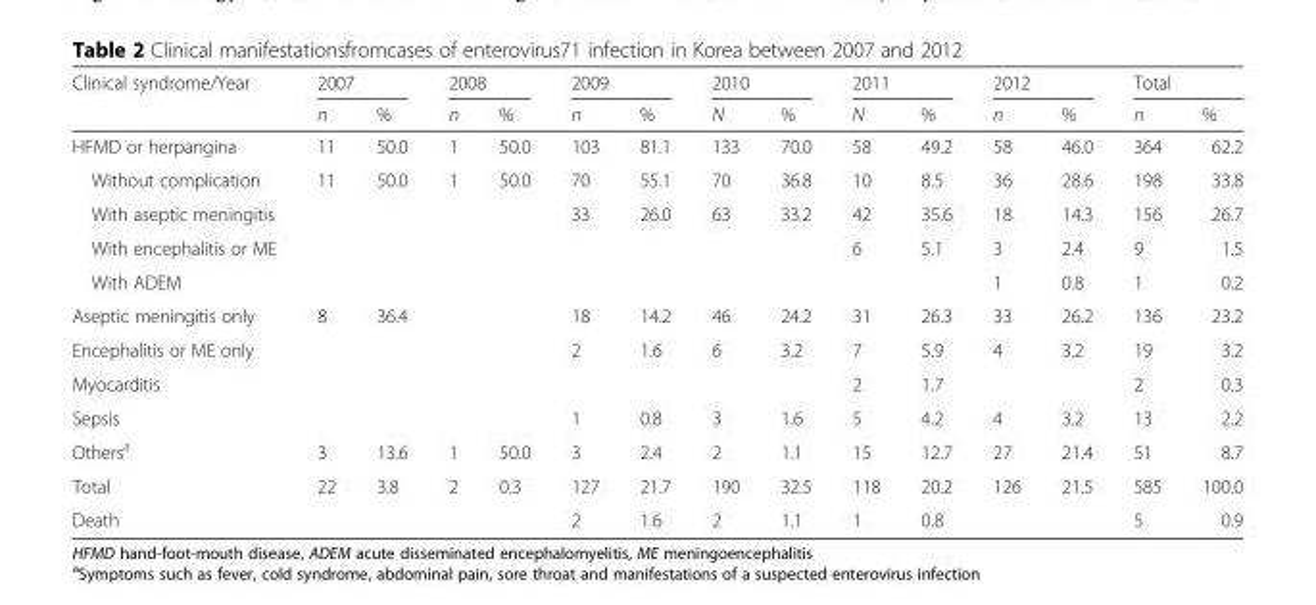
<table><thead><tr><td rowspan="2">Clinical syndrome/Year</td><td colspan="2">2007</td><td colspan="2">2008</td><td colspan="2">2009</td><td colspan="2">2010</td><td colspan="2">2011</td><td colspan="2">2012</td><td colspan="2">Total</td></tr><tr><td>n</td><td>%</td><td>n</td><td>%</td><td>n</td><td>%</td><td>N</td><td>%</td><td>N</td><td>%</td><td>n</td><td>%</td><td>n</td><td>%</td></tr></thead><tbody><tr><td>HFMD or herpangina</td><td>11</td><td>50.0</td><td>1</td><td>50.0</td><td>103</td><td>81.1</td><td>133</td><td>70.0</td><td>58</td><td>49.2</td><td>58</td><td>46.0</td><td>364</td><td>62.2</td></tr><tr><td>Without complication</td><td>11</td><td>50.0</td><td>1</td><td>50.0</td><td>70</td><td>55.1</td><td>70</td><td>36.8</td><td>10</td><td>8.5</td><td>36</td><td>28.6</td><td>198</td><td>33.8</td></tr><tr><td>With aseptic meningitis</td><td></td><td></td><td></td><td></td><td>33</td><td>26.0</td><td>63</td><td>33.2</td><td>42</td><td>35.6</td><td>18</td><td>14.3</td><td>156</td><td>26.7</td></tr><tr><td>With encephalitis or ME</td><td></td><td></td><td></td><td></td><td></td><td></td><td></td><td></td><td>6</td><td>5.1</td><td>3</td><td>2.4</td><td>9</td><td>1.5</td></tr><tr><td>With ADEM</td><td></td><td></td><td></td><td></td><td></td><td></td><td></td><td></td><td></td><td></td><td>1</td><td>0.8</td><td>1</td><td>0.2</td></tr><tr><td>Aseptic meningitis only</td><td>8</td><td>36.4</td><td></td><td></td><td>18</td><td>14.2</td><td>46</td><td>24.2</td><td>31</td><td>26.3</td><td>33</td><td>26.2</td><td>136</td><td>23.2</td></tr><tr><td>Encephalitis or ME only</td><td></td><td></td><td></td><td></td><td>2</td><td>1.6</td><td>6</td><td>3.2</td><td>7</td><td>5.9</td><td>4</td><td>3.2</td><td>19</td><td>3.2</td></tr><tr><td>Myocarditis</td><td></td><td></td><td></td><td></td><td></td><td></td><td></td><td></td><td>2</td><td>1.7</td><td></td><td></td><td>2</td><td>0.3</td></tr><tr><td>Sepsis</td><td></td><td></td><td></td><td></td><td>1</td><td>0.8</td><td>3</td><td>1.6</td><td>5</td><td>4.2</td><td>4</td><td>3.2</td><td>13</td><td>2.2</td></tr><tr><td>Others<sup>a</sup></td><td>3</td><td>13.6</td><td>1</td><td>50.0</td><td>3</td><td>2.4</td><td>2</td><td>1.1</td><td>15</td><td>12.7</td><td>27</td><td>21.4</td><td>51</td><td>8.7</td></tr><tr><td>Total</td><td>22</td><td>3.8</td><td>2</td><td>0.3</td><td>127</td><td>21.7</td><td>190</td><td>32.5</td><td>118</td><td>20.2</td><td>126</td><td>21.5</td><td>585</td><td>100.0</td></tr><tr><td>Death</td><td></td><td></td><td></td><td></td><td>2</td><td>1.6</td><td>2</td><td>1.1</td><td>1</td><td>0.8</td><td></td><td></td><td>5</td><td>0.9</td></tr></tbody></table>